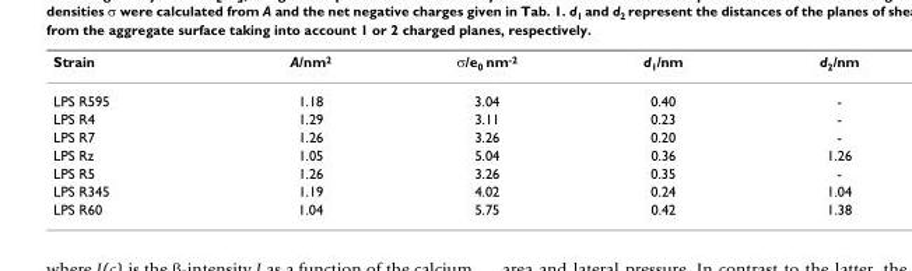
<table><thead><tr><td>Strain</td><td>A/nm<sup>2</sup></td><td>σ/e<sub>0</sub> nm<sup>-2</sup></td><td>d<sub>1</sub>/nm</td><td>d<sub>2</sub>/nm</td></tr></thead><tbody><tr><td>LPS R595</td><td>1.18</td><td>3.04</td><td>0.40</td><td>-</td></tr><tr><td>LPS R4</td><td>1.29</td><td>3.11</td><td>0.23</td><td>-</td></tr><tr><td>LPS R7</td><td>1.26</td><td>3.26</td><td>0.20</td><td>-</td></tr><tr><td>LPS Rz</td><td>1.05</td><td>5.04</td><td>0.36</td><td>1.26</td></tr><tr><td>LPS R5</td><td>1.26</td><td>3.26</td><td>0.35</td><td>-</td></tr><tr><td>LPS R345</td><td>1.19</td><td>4.02</td><td>0.24</td><td>1.04</td></tr><tr><td>LPS R60</td><td>1.04</td><td>5.75</td><td>0.42</td><td>1.38</td></tr></tbody></table>